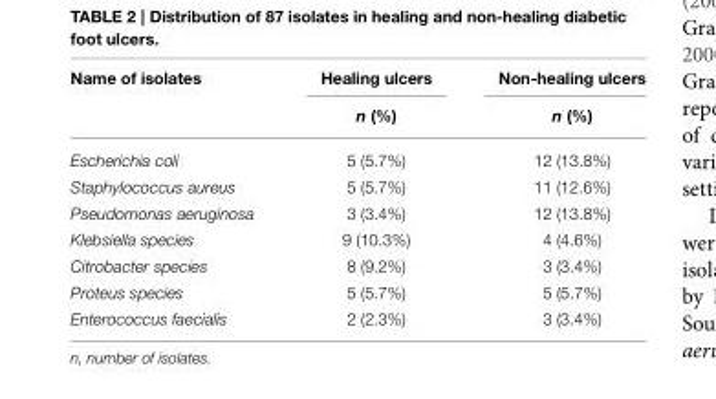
<table><thead><tr><td rowspan="2">Name of isolates</td><td rowspan="2">Healing ulcers n (%)</td><td rowspan="2">Non-healing ulcers n (%)</td></tr><tr></tr></thead><tbody><tr><td>Escherichia coli</td><td>5 (5.7%)</td><td>12 (13.8%)</td></tr><tr><td>Staphylococcus aureus</td><td>5 (5.7%)</td><td>11 (12.6%)</td></tr><tr><td>Pseudomonas aeruginosa</td><td>3 (3.4%)</td><td>12 (13.8%)</td></tr><tr><td>Klebsiella species</td><td>9 (10.3%)</td><td>4 (4.6%)</td></tr><tr><td>Citrobacter species</td><td>8 (9.2%)</td><td>3 (3.4%)</td></tr><tr><td>Proteus species</td><td>5 (5.7%)</td><td>5 (5.7%)</td></tr><tr><td>Enterococcus faecialis</td><td>2 (2.3%)</td><td>3 (3.4%)</td></tr></tbody></table>